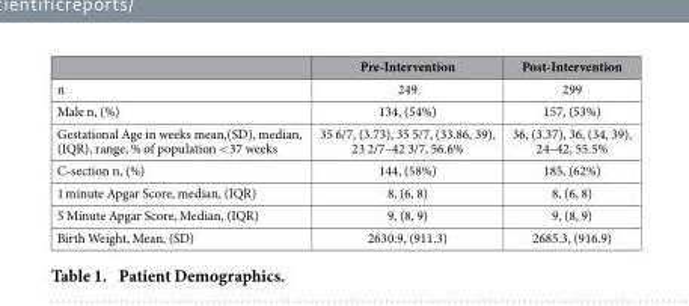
<table><thead><tr><td></td><td>Pre-Intervention</td><td>Post-Intervention</td></tr></thead><tbody><tr><td>n</td><td>249</td><td>299</td></tr><tr><td>Male n, (%)</td><td>134, (54%)</td><td>157, (53%)</td></tr><tr><td>Gestational Age in weeks mean,(SD), median, (IQR), range, % of population &lt; 37 weeks</td><td>35 6/7, (3.73), 35 5/7, (33.86, 39), 23 2/7–42 3/7, 56.6%</td><td>36, (3.37), 36, (34, 39), 24–42, 55.5%</td></tr><tr><td>C-section n, (%)</td><td>144, (58%)</td><td>185, (62%)</td></tr><tr><td>1 minute Apgar Score, median, (IQR)</td><td>8, (6, 8)</td><td>8, (6, 8)</td></tr><tr><td>5 Minute Apgar Score, Median, (IQR)</td><td>9, (8, 9)</td><td>9, (8, 9)</td></tr><tr><td>Birth Weight, Mean, (SD)</td><td>2630.9, (911.3)</td><td>2685.3, (916.9)</td></tr></tbody></table>